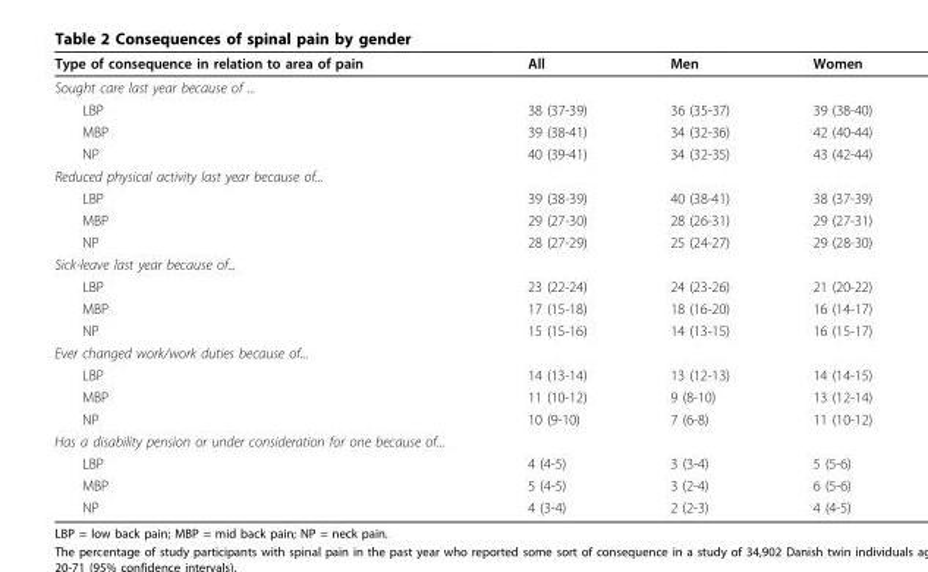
<table><thead><tr><td>Type of consequence in relation to area of pain</td><td>All</td><td>Men</td><td>Women</td></tr></thead><tbody><tr><td colspan="4">Sought care last year because of ...</td></tr><tr><td>LBP</td><td>38 (37-39)</td><td>36 (35-37)</td><td>39 (38-40)</td></tr><tr><td>MBP</td><td>39 (38-41)</td><td>34 (32-36)</td><td>42 (40-44)</td></tr><tr><td>NP</td><td>40 (39-41)</td><td>34 (32-35)</td><td>43 (42-44)</td></tr><tr><td colspan="4">Reduced physical activity last year because of...</td></tr><tr><td>LBP</td><td>39 (38-39)</td><td>40 (38-41)</td><td>38 (37-39)</td></tr><tr><td>MBP</td><td>29 (27-30)</td><td>28 (26-31)</td><td>29 (27-31)</td></tr><tr><td>NP</td><td>28 (27-29)</td><td>25 (24-27)</td><td>29 (28-30)</td></tr><tr><td colspan="4">Sick-leave last year because of...</td></tr><tr><td>LBP</td><td>23 (22-24)</td><td>24 (23-26)</td><td>21 (20-22)</td></tr><tr><td>MBP</td><td>17 (15-18)</td><td>18 (16-20)</td><td>16 (14-17)</td></tr><tr><td>NP</td><td>15 (15-16)</td><td>14 (13-15)</td><td>16 (15-17)</td></tr><tr><td colspan="4">Ever changed work/work duties because of...</td></tr><tr><td>LBP</td><td>14 (13-14)</td><td>13 (12-13)</td><td>14 (14-15)</td></tr><tr><td>MBP</td><td>11 (10-12)</td><td>9 (8-10)</td><td>13 (12-14)</td></tr><tr><td>NP</td><td>10 (9-10)</td><td>7 (6-8)</td><td>11 (10-12)</td></tr><tr><td colspan="4">Has a disability pension or under consideration for one because of...</td></tr><tr><td>LBP</td><td>4 (4-5)</td><td>3 (3-4)</td><td>5 (5-6)</td></tr><tr><td>MBP</td><td>5 (4-5)</td><td>3 (2-4)</td><td>6 (5-6)</td></tr><tr><td>NP</td><td>4 (3-4)</td><td>2 (2-3)</td><td>4 (4-5)</td></tr></tbody></table>